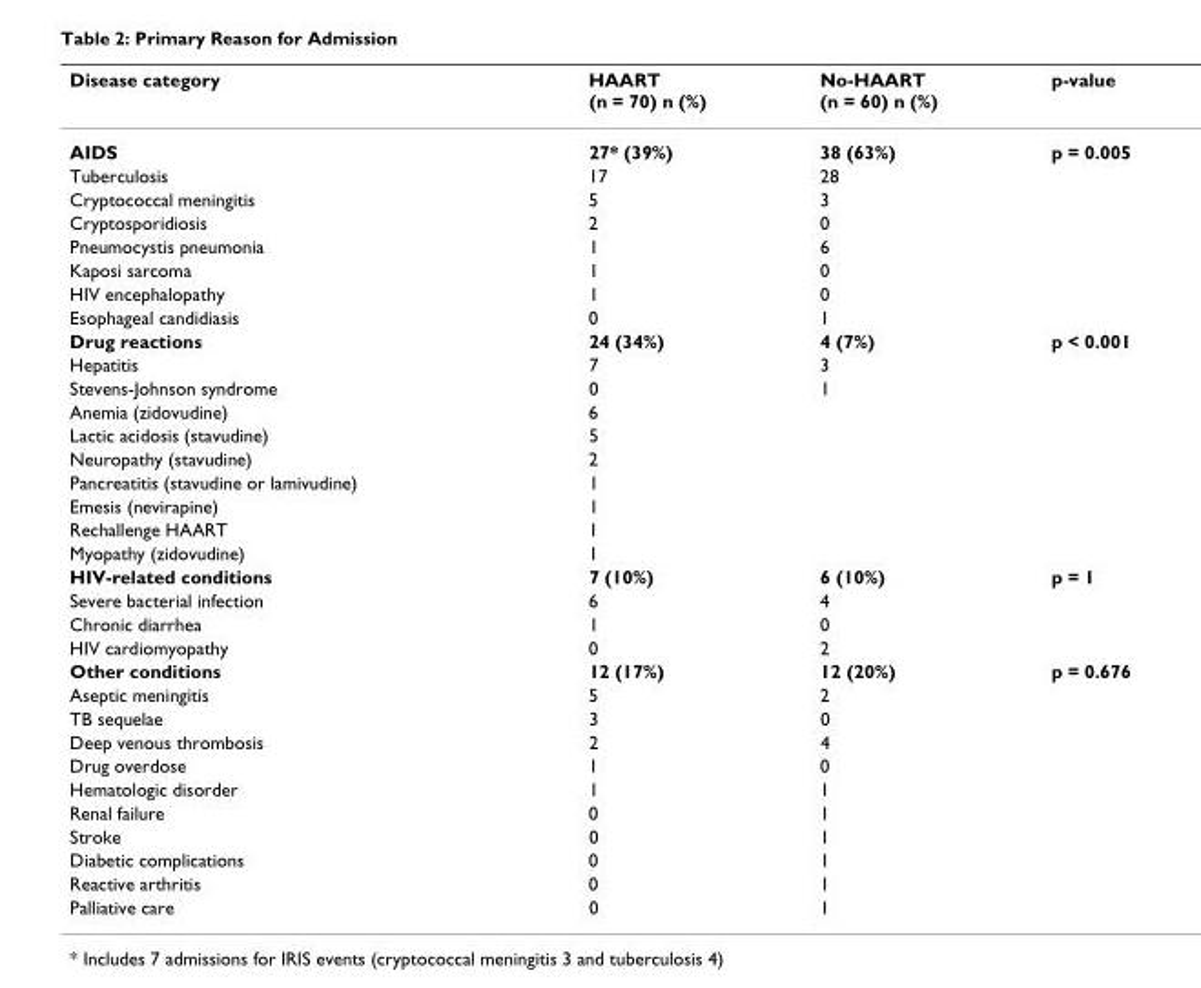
<table><thead><tr><td>Disease category</td><td>HAART (n = 70) n (%)</td><td>No-HAART (n = 60) n (%)</td><td>p-value</td></tr></thead><tbody><tr><td>AIDS</td><td>27* (39%)</td><td>38 (63%)</td><td>p = 0.005</td></tr><tr><td>Tuberculosis</td><td>17</td><td>28</td><td></td></tr><tr><td>Cryptococcal meningitis</td><td>5</td><td>3</td><td></td></tr><tr><td>Cryptosporidiosis</td><td>2</td><td>0</td><td></td></tr><tr><td>Pneumocystis pneumonia</td><td>1</td><td>6</td><td></td></tr><tr><td>Kaposi sarcoma</td><td>1</td><td>0</td><td></td></tr><tr><td>HIV encephalopathy</td><td>1</td><td>0</td><td></td></tr><tr><td>Esophageal candidiasis</td><td>0</td><td>1</td><td></td></tr><tr><td>Drug reactions</td><td>24 (34%)</td><td>4 (7%)</td><td>p &lt; 0.001</td></tr><tr><td>Hepatitis</td><td>7</td><td>3</td><td></td></tr><tr><td>Stevens-Johnson syndrome</td><td>0</td><td>1</td><td></td></tr><tr><td>Anemia (zidovudine)</td><td>6</td><td></td><td></td></tr><tr><td>Lactic acidosis (stavudine)</td><td>5</td><td></td><td></td></tr><tr><td>Neuropathy (stavudine)</td><td>2</td><td></td><td></td></tr><tr><td>Pancreatitis (stavudine or lamivudine)</td><td>1</td><td></td><td></td></tr><tr><td>Emesis (nevirapine)</td><td>1</td><td></td><td></td></tr><tr><td>Rechallenge HAART</td><td>1</td><td></td><td></td></tr><tr><td>Myopathy (zidovudine)</td><td>1</td><td></td><td></td></tr><tr><td>HIV-related conditions</td><td>7 (10%)</td><td>6 (10%)</td><td>p = 1</td></tr><tr><td>Severe bacterial infection</td><td>6</td><td>4</td><td></td></tr><tr><td>Chronic diarrhea</td><td>1</td><td>0</td><td></td></tr><tr><td>HIV cardiomyopathy</td><td>0</td><td>2</td><td></td></tr><tr><td>Other conditions</td><td>12 (17%)</td><td>12 (20%)</td><td>p = 0.676</td></tr><tr><td>Aseptic meningitis</td><td>5</td><td>2</td><td></td></tr><tr><td>TB sequelae</td><td>3</td><td>0</td><td></td></tr><tr><td>Deep venous thrombosis</td><td>2</td><td>4</td><td></td></tr><tr><td>Drug overdose</td><td>1</td><td>0</td><td></td></tr><tr><td>Hematologic disorder</td><td>1</td><td>1</td><td></td></tr><tr><td>Renal failure</td><td>0</td><td>1</td><td></td></tr><tr><td>Stroke</td><td>0</td><td>1</td><td></td></tr><tr><td>Diabetic complications</td><td>0</td><td>1</td><td></td></tr><tr><td>Reactive arthritis</td><td>0</td><td>1</td><td></td></tr><tr><td>Palliative care</td><td>0</td><td>1</td><td></td></tr></tbody></table>